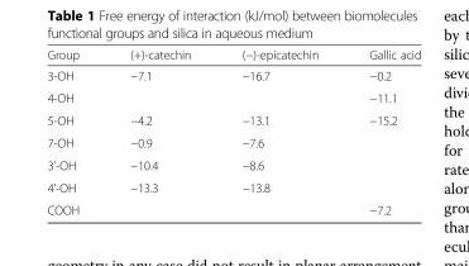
<table><thead><tr><td>Group</td><td>(+)-catechin</td><td>(−)-epicatechin</td><td>Gallic acid</td></tr></thead><tbody><tr><td>3-OH</td><td>−7.1</td><td>−16.7</td><td>−0.2</td></tr><tr><td>4-OH</td><td></td><td></td><td>−11.1</td></tr><tr><td>5-OH</td><td>−4.2</td><td>−13.1</td><td>−15.2</td></tr><tr><td>7-OH</td><td>−0.9</td><td>−7.6</td><td></td></tr><tr><td>3&#x27;-OH</td><td>−10.4</td><td>−8.6</td><td></td></tr><tr><td>4&#x27;-OH</td><td>−13.3</td><td>−13.8</td><td></td></tr><tr><td>COOH</td><td></td><td></td><td>−7.2</td></tr></tbody></table>